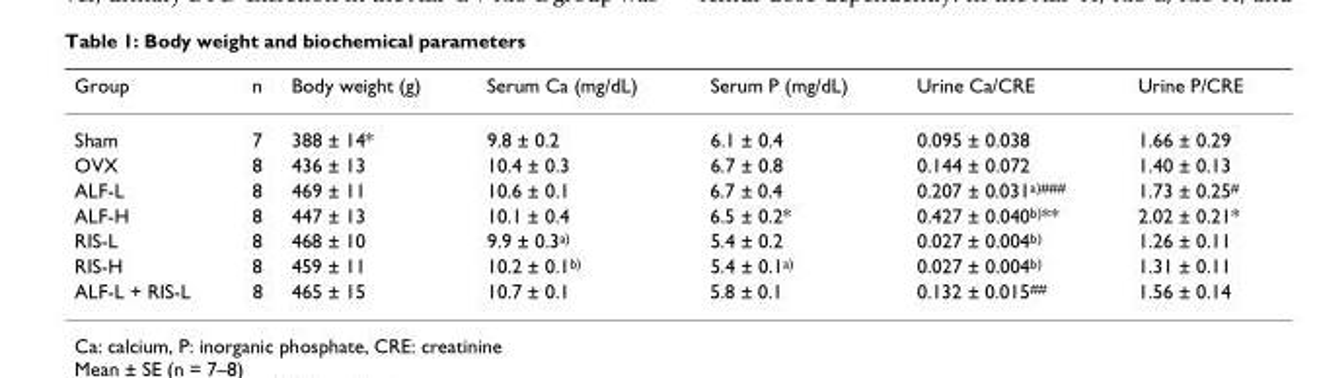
<table><thead><tr><td>Group</td><td>n</td><td>Body weight (g)</td><td>Serum Ca (mg/dL)</td><td>Serum P (mg/dL)</td><td>Urine Ca/CRE</td><td>Urine P/CRE</td></tr></thead><tbody><tr><td>Sham</td><td>7</td><td>388 ± 14*</td><td>9.8 ± 0.2</td><td>6.1 ± 0.4</td><td>0.095 ± 0.038</td><td>1.66 ± 0.29</td></tr><tr><td>OVX</td><td>8</td><td>436 ± 13</td><td>10.4 ± 0.3</td><td>6.7 ± 0.8</td><td>0.144 ± 0.072</td><td>1.40 ± 0.13</td></tr><tr><td>ALF-L</td><td>8</td><td>469 ± 11</td><td>10.6 ± 0.1</td><td>6.7 ± 0.4</td><td>0.207 ± 0.031<sup>a)###</sup></td><td>1.73 ± 0.25<sup>#</sup></td></tr><tr><td>ALF-H</td><td>8</td><td>447 ± 13</td><td>10.1 ± 0.4</td><td>6.5 ± 0.2*</td><td>0.427 ± 0.040<sup>b)</sup>**</td><td>2.02 ± 0.21*</td></tr><tr><td>RIS-L</td><td>8</td><td>468 ± 10</td><td>9.9 ± 0.3<sup>a)</sup></td><td>5.4 ± 0.2</td><td>0.027 ± 0.004<sup>b)</sup></td><td>1.26 ± 0.11</td></tr><tr><td>RIS-H</td><td>8</td><td>459 ± 11</td><td>10.2 ± 0.1<sup>b)</sup></td><td>5.4 ± 0.1<sup>a)</sup></td><td>0.027 ± 0.004<sup>b)</sup></td><td>1.31 ± 0.11</td></tr><tr><td>ALF-L + RIS-L</td><td>8</td><td>465 ± 15</td><td>10.7 ± 0.1</td><td>5.8 ± 0.1</td><td>0.132 ± 0.015<sup>##</sup></td><td>1.56 ± 0.14</td></tr></tbody></table>